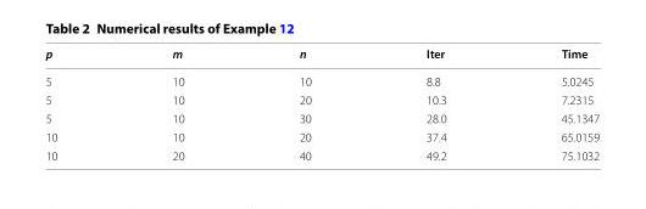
<table><thead><tr><td>p</td><td>m</td><td>n</td><td>Iter</td><td>Time</td></tr></thead><tbody><tr><td>5</td><td>10</td><td>10</td><td>8.8</td><td>5.0245</td></tr><tr><td>5</td><td>10</td><td>20</td><td>10.3</td><td>7.2315</td></tr><tr><td>5</td><td>10</td><td>30</td><td>28.0</td><td>45.1347</td></tr><tr><td>10</td><td>10</td><td>20</td><td>37.4</td><td>65.0159</td></tr><tr><td>10</td><td>20</td><td>40</td><td>49.2</td><td>75.1032</td></tr></tbody></table>